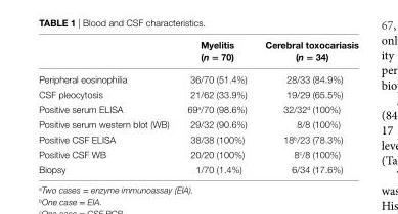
<table><thead><tr><td></td><td>Myelitis (n = 70)</td><td>Cerebral toxocariasis (n = 34)</td></tr></thead><tbody><tr><td>Peripheral eosinophilia</td><td>36/70 (51.4%)</td><td>28/33 (84.9%)</td></tr><tr><td>CSF pleocytosis</td><td>21/62 (33.9%)</td><td>19/29 (65.5%)</td></tr><tr><td>Positive serum ELISA</td><td>69<sup>a</sup>/70 (98.6%)</td><td>32/32<sup>d</sup> (100%)</td></tr><tr><td>Positive serum western blot (WB)</td><td>29/32 (90.6%)</td><td>8/8 (100%)</td></tr><tr><td>Positive CSF ELISA</td><td>38/38 (100%)</td><td>18<sup>b</sup>/23 (78.3%)</td></tr><tr><td>Positive CSF WB</td><td>20/20 (100%)</td><td>8<sup>c</sup>/8 (100%)</td></tr><tr><td>Biopsy</td><td>1/70 (1.4%)</td><td>6/34 (17.6%)</td></tr></tbody></table>